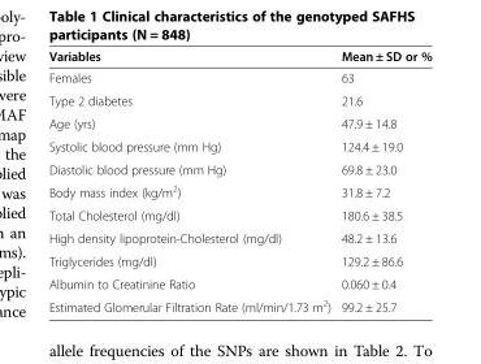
<table><thead><tr><td>Variables</td><td>Mean ± SD or %</td></tr></thead><tbody><tr><td>Females</td><td>63</td></tr><tr><td>Type 2 diabetes</td><td>21.6</td></tr><tr><td>Age (yrs)</td><td>47.9 ± 14.8</td></tr><tr><td>Systolic blood pressure (mm Hg)</td><td>124.4 ± 19.0</td></tr><tr><td>Diastolic blood pressure (mm Hg)</td><td>69.8 ± 23.0</td></tr><tr><td>Body mass index (kg/m<sup>2</sup>)</td><td>31.8 ± 7.2</td></tr><tr><td>Total Cholesterol (mg/dl)</td><td>180.6 ± 38.5</td></tr><tr><td>High density lipoprotein-Cholesterol (mg/dl)</td><td>48.2 ± 13.6</td></tr><tr><td>Triglycerides (mg/dl)</td><td>129.2 ± 86.6</td></tr><tr><td>Albumin to Creatinine Ratio</td><td>0.060 ± 0.4</td></tr><tr><td>Estimated Glomerular Filtration Rate (ml/min/1.73 m<sup>2</sup>)</td><td>99.2 ± 25.7</td></tr></tbody></table>